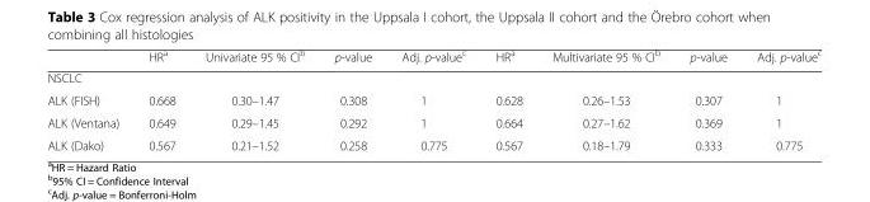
<table><thead><tr><td></td><td>HR<sup>a</sup></td><td>Univariate 95 % CI<sup>b</sup></td><td>p-value</td><td>Adj. p-value<sup>c</sup></td><td>HR<sup>a</sup></td><td>Multivariate 95 % CI<sup>b</sup></td><td>p-value</td><td>Adj. p-value<sup>c</sup></td></tr></thead><tbody><tr><td colspan="9">NSCLC</td></tr><tr><td>ALK (FISH)</td><td>0.668</td><td>0.30–1.47</td><td>0.308</td><td>1</td><td>0.628</td><td>0.26–1.53</td><td>0.307</td><td>1</td></tr><tr><td>ALK (Ventana)</td><td>0.649</td><td>0.29–1.45</td><td>0.292</td><td>1</td><td>0.664</td><td>0.27–1.62</td><td>0.369</td><td>1</td></tr><tr><td>ALK (Dako)</td><td>0.567</td><td>0.21–1.52</td><td>0.258</td><td>0.775</td><td>0.567</td><td>0.18–1.79</td><td>0.333</td><td>0.775</td></tr></tbody></table>